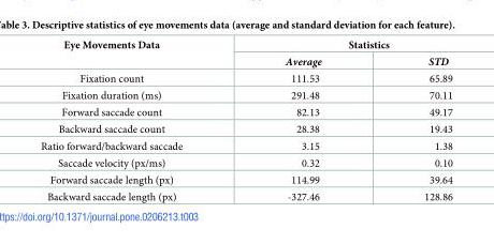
<table><thead><tr><td rowspan="2">Eye Movements Data</td><td colspan="2">Statistics</td></tr><tr><td>Average</td><td>STD</td></tr></thead><tbody><tr><td>Fixation count</td><td>111.53</td><td>65.89</td></tr><tr><td>Fixation duration (ms)</td><td>291.48</td><td>70.11</td></tr><tr><td>Forward saccade count</td><td>82.13</td><td>49.17</td></tr><tr><td>Backward saccade count</td><td>28.38</td><td>19.43</td></tr><tr><td>Ratio forward/backward saccade</td><td>3.15</td><td>1.38</td></tr><tr><td>Saccade velocity (px/ms)</td><td>0.32</td><td>0.10</td></tr><tr><td>Forward saccade length (px)</td><td>114.99</td><td>39.64</td></tr><tr><td>Backward saccade length (px)</td><td>-327.46</td><td>128.86</td></tr></tbody></table>